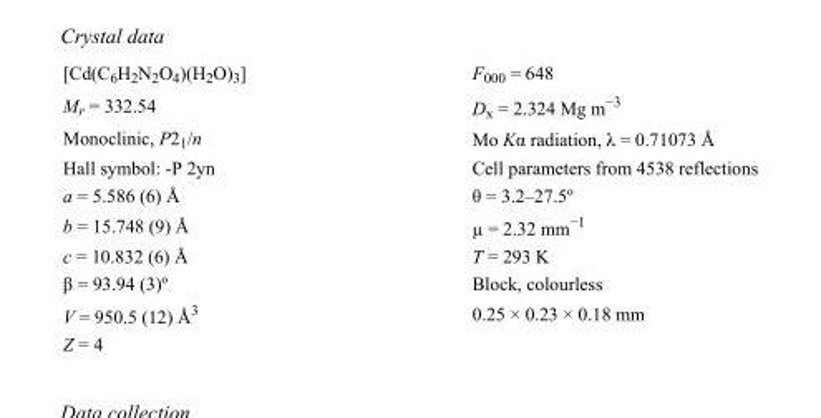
<table><tbody><tr><td>[Cd(C<sub>6</sub>H<sub>2</sub>N<sub>2</sub>O<sub>4</sub>)(H<sub>2</sub>O)<sub>3</sub>]</td><td>F000 = 648</td></tr><tr><td>M<sub>r</sub> = 332.54</td><td>D<sub>x</sub> = 2.324 Mg m<sup>−3</sup></td></tr><tr><td>Monoclinic, P2<sub>1</sub>/n</td><td>Mo Kα radiation, λ = 0.71073 Å</td></tr><tr><td>Hall symbol: -P 2yn</td><td>Cell parameters from 4538 reflections</td></tr><tr><td>a = 5.586 (6) Å</td><td>θ = 3.2–27.5º</td></tr><tr><td>b = 15.748 (9) Å</td><td>µ = 2.32 mm<sup>−1</sup></td></tr><tr><td>c = 10.832 (6) Å</td><td>T = 293 K</td></tr><tr><td>β = 93.94 (3)º</td><td>Block, colourless</td></tr><tr><td>V = 950.5 (12) Å<sup>3</sup></td><td>0.25 × 0.23 × 0.18 mm</td></tr><tr><td>Z = 4</td><td></td></tr></tbody></table>